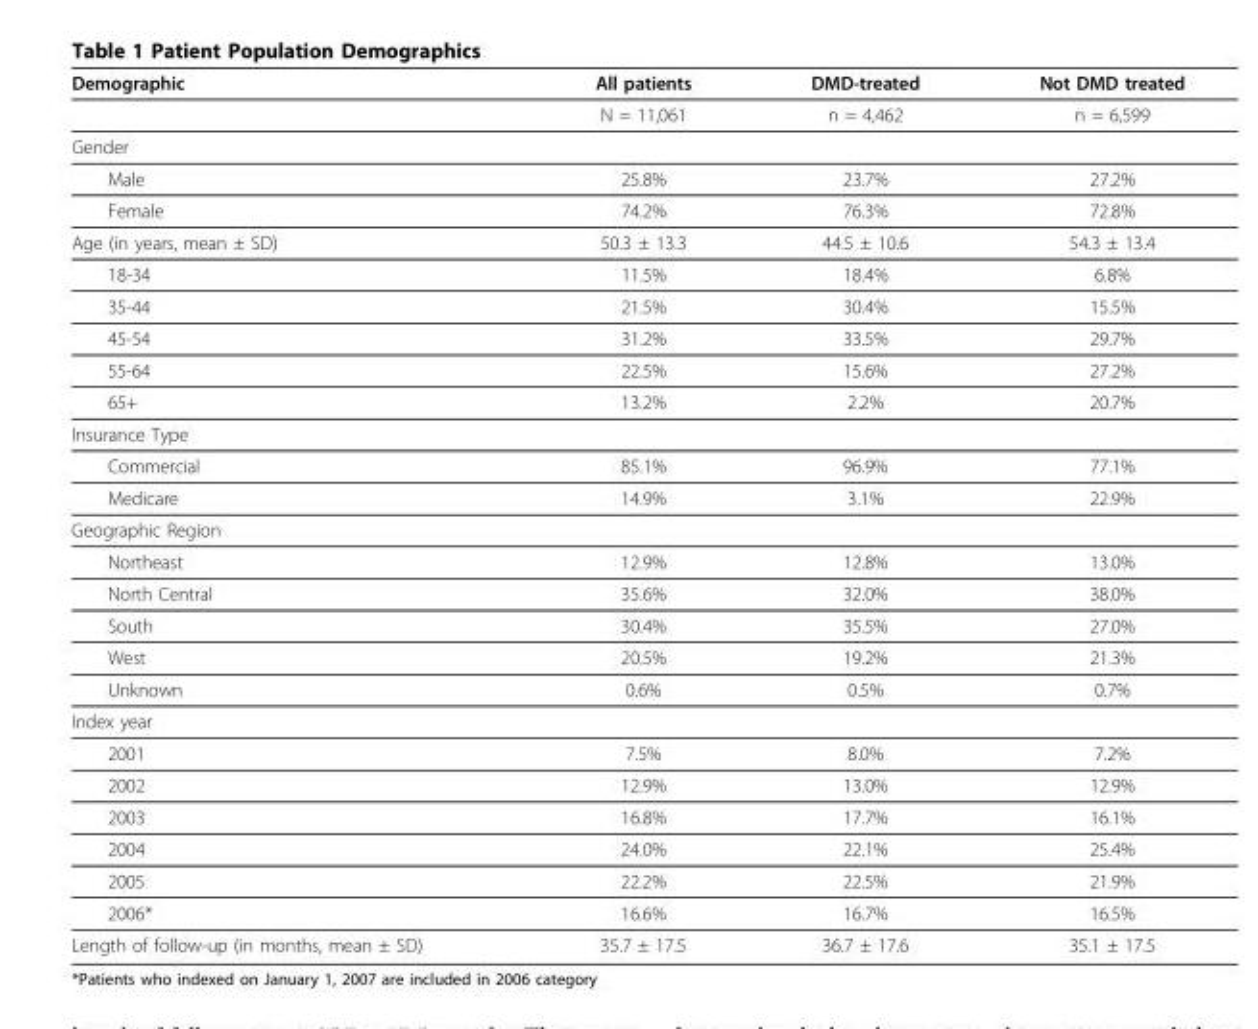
<table><thead><tr><td>Demographic</td><td>All patients</td><td>DMD-treated</td><td>Not DMD treated</td></tr></thead><tbody><tr><td></td><td>N = 11,061</td><td>n = 4,462</td><td>n = 6,599</td></tr><tr><td colspan="4">Gender</td></tr><tr><td>Male</td><td>25.8%</td><td>23.7%</td><td>27.2%</td></tr><tr><td>Female</td><td>74.2%</td><td>76.3%</td><td>72.8%</td></tr><tr><td>Age (in years, mean ± SD)</td><td>50.3 ± 13.3</td><td>44.5 ± 10.6</td><td>54.3 ± 13.4</td></tr><tr><td>18-34</td><td>11.5%</td><td>18.4%</td><td>6.8%</td></tr><tr><td>35-44</td><td>21.5%</td><td>30.4%</td><td>15.5%</td></tr><tr><td>45-54</td><td>31.2%</td><td>33.5%</td><td>29.7%</td></tr><tr><td>55-64</td><td>22.5%</td><td>15.6%</td><td>27.2%</td></tr><tr><td>65+</td><td>13.2%</td><td>2.2%</td><td>20.7%</td></tr><tr><td colspan="4">Insurance Type</td></tr><tr><td>Commercial</td><td>85.1%</td><td>96.9%</td><td>77.1%</td></tr><tr><td>Medicare</td><td>14.9%</td><td>3.1%</td><td>22.9%</td></tr><tr><td colspan="4">Geographic Region</td></tr><tr><td>Northeast</td><td>12.9%</td><td>12.8%</td><td>13.0%</td></tr><tr><td>North Central</td><td>35.6%</td><td>32.0%</td><td>38.0%</td></tr><tr><td>South</td><td>30.4%</td><td>35.5%</td><td>27.0%</td></tr><tr><td>West</td><td>20.5%</td><td>19.2%</td><td>21.3%</td></tr><tr><td>Unknown</td><td>0.6%</td><td>0.5%</td><td>0.7%</td></tr><tr><td colspan="4">Index year</td></tr><tr><td>2001</td><td>7.5%</td><td>8.0%</td><td>7.2%</td></tr><tr><td>2002</td><td>12.9%</td><td>13.0%</td><td>12.9%</td></tr><tr><td>2003</td><td>16.8%</td><td>17.7%</td><td>16.1%</td></tr><tr><td>2004</td><td>24.0%</td><td>22.1%</td><td>25.4%</td></tr><tr><td>2005</td><td>22.2%</td><td>22.5%</td><td>21.9%</td></tr><tr><td>2006*</td><td>16.6%</td><td>16.7%</td><td>16.5%</td></tr><tr><td>Length of follow-up (in months, mean ± SD)</td><td>35.7 ± 17.5</td><td>36.7 ± 17.6</td><td>35.1 ± 17.5</td></tr></tbody></table>